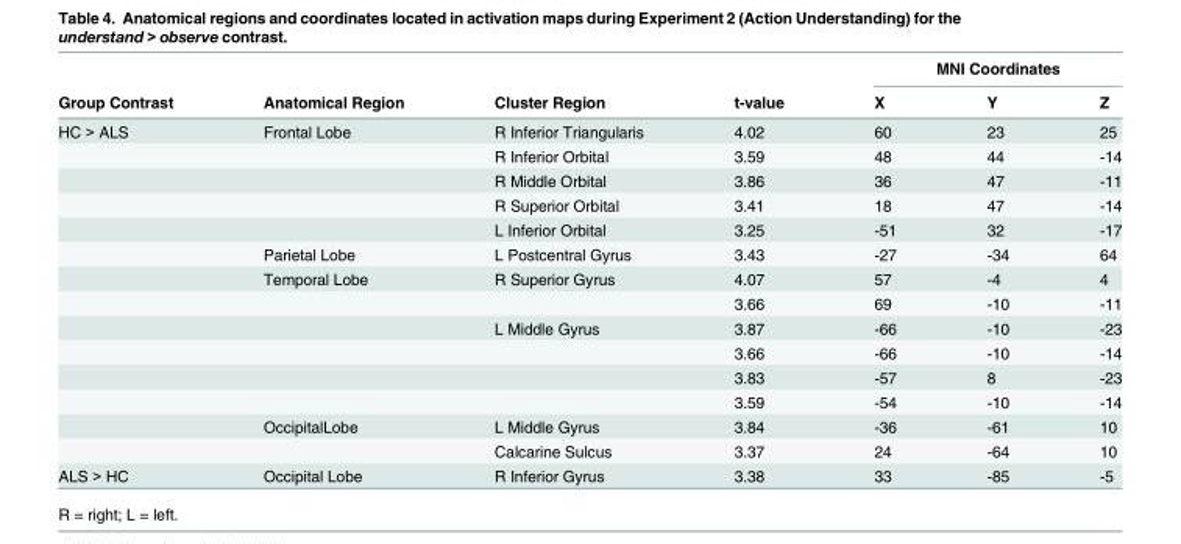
<table><thead><tr><td rowspan="2">Group Contrast</td><td rowspan="2">Anatomical Region</td><td rowspan="2">Cluster Region</td><td rowspan="2">t-value</td><td colspan="3">MNI Coordinates</td></tr><tr><td>X</td><td>Y</td><td>Z</td></tr></thead><tbody><tr><td rowspan="14">HC &gt; ALS</td><td>Frontal Lobe</td><td>R Inferior Triangularis</td><td>4.02</td><td>60</td><td>23</td><td>25</td></tr><tr><td></td><td>R Inferior Orbital</td><td>3.59</td><td>48</td><td>44</td><td>-14</td></tr><tr><td></td><td>R Middle Orbital</td><td>3.86</td><td>36</td><td>47</td><td>-11</td></tr><tr><td></td><td>R Superior Orbital</td><td>3.41</td><td>18</td><td>47</td><td>-14</td></tr><tr><td></td><td>L Inferior Orbital</td><td>3.25</td><td>-51</td><td>32</td><td>-17</td></tr><tr><td>Parietal Lobe</td><td>L Postcentral Gyrus</td><td>3.43</td><td>-27</td><td>-34</td><td>64</td></tr><tr><td>Temporal Lobe</td><td>R Superior Gyrus</td><td>4.07</td><td>57</td><td>-4</td><td>4</td></tr><tr><td></td><td></td><td>3.66</td><td>69</td><td>-10</td><td>-11</td></tr><tr><td></td><td>L Middle Gyrus</td><td>3.87</td><td>-66</td><td>-10</td><td>-23</td></tr><tr><td></td><td></td><td>3.66</td><td>-66</td><td>-10</td><td>-14</td></tr><tr><td></td><td></td><td>3.83</td><td>-57</td><td>8</td><td>-23</td></tr><tr><td></td><td></td><td>3.59</td><td>-54</td><td>-10</td><td>-14</td></tr><tr><td>OccipitalLobe</td><td>L Middle Gyrus</td><td>3.84</td><td>-36</td><td>-61</td><td>10</td></tr><tr><td></td><td>Calcarine Sulcus</td><td>3.37</td><td>24</td><td>-64</td><td>10</td></tr><tr><td>ALS &gt; HC</td><td>Occipital Lobe</td><td>R Inferior Gyrus</td><td>3.38</td><td>33</td><td>-85</td><td>-5</td></tr></tbody></table>